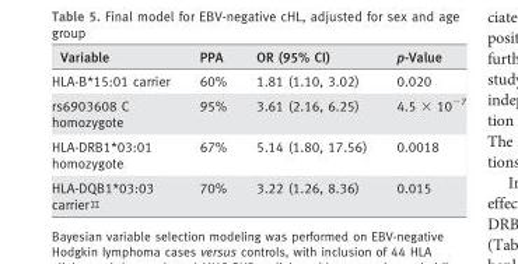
<table><thead><tr><td>Variable</td><td>PPA</td><td>OR (95% CI)</td><td>p-Value</td></tr></thead><tbody><tr><td>HLA-B*15:01 carrier</td><td>60%</td><td>1.81 (1.10, 3.02)</td><td>0.020</td></tr><tr><td>rs6903608 C homozygote</td><td>95%</td><td>3.61 (2.16, 6.25)</td><td>4.5 × 10<sup>−7</sup></td></tr><tr><td>HLA-DRB1*03:01 homozygote</td><td>67%</td><td>5.14 (1.80, 17.56)</td><td>0.0018</td></tr><tr><td>HLA-DQB1*03:03 carrier‡</td><td>70%</td><td>3.22 (1.26, 8.36)</td><td>0.015</td></tr></tbody></table>